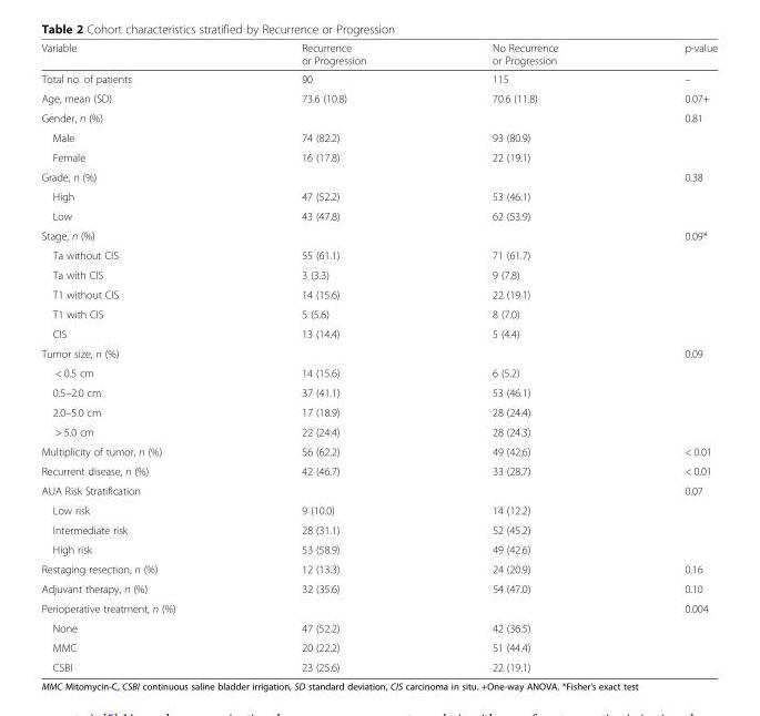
<table><thead><tr><td>Variable</td><td>Recurrence or Progression</td><td>No Recurrence or Progression</td><td>p-value</td></tr></thead><tbody><tr><td>Total no. of patients</td><td>90</td><td>115</td><td>–</td></tr><tr><td>Age, mean (SD)</td><td>73.6 (10.8)</td><td>70.6 (11.8)</td><td>0.07+</td></tr><tr><td>Gender, n (%)</td><td></td><td></td><td>0.81</td></tr><tr><td>Male</td><td>74 (82.2)</td><td>93 (80.9)</td><td rowspan="2"></td></tr><tr><td>Female</td><td>16 (17.8)</td><td>22 (19.1)</td></tr><tr><td>Grade, n (%)</td><td></td><td></td><td>0.38</td></tr><tr><td>High</td><td>47 (52.2)</td><td>53 (46.1)</td><td rowspan="2"></td></tr><tr><td>Low</td><td>43 (47.8)</td><td>62 (53.9)</td></tr><tr><td>Stage, n (%)</td><td></td><td></td><td>0.09*</td></tr><tr><td>Ta without CIS</td><td>55 (61.1)</td><td>71 (61.7)</td><td rowspan="5"></td></tr><tr><td>Ta with CIS</td><td>3 (3.3)</td><td>9 (7.8)</td></tr><tr><td>T1 without CIS</td><td>14 (15.6)</td><td>22 (19.1)</td></tr><tr><td>T1 with CIS</td><td>5 (5.6)</td><td>8 (7.0)</td></tr><tr><td>CIS</td><td>13 (14.4)</td><td>5 (4.4)</td></tr><tr><td>Tumor size, n (%)</td><td></td><td></td><td>0.09</td></tr><tr><td>&lt; 0.5 cm</td><td>14 (15.6)</td><td>6 (5.2)</td><td rowspan="4"></td></tr><tr><td>0.5–2.0 cm</td><td>37 (41.1)</td><td>53 (46.1)</td></tr><tr><td>2.0–5.0 cm</td><td>17 (18.9)</td><td>28 (24.4)</td></tr><tr><td>&gt; 5.0 cm</td><td>22 (24.4)</td><td>28 (24.3)</td></tr><tr><td>Multiplicity of tumor, n (%)</td><td>56 (62.2)</td><td>49 (42.6)</td><td>&lt; 0.01</td></tr><tr><td>Recurrent disease, n (%)</td><td>42 (46.7)</td><td>33 (28.7)</td><td>&lt; 0.01</td></tr><tr><td>AUA Risk Stratification</td><td></td><td></td><td>0.07</td></tr><tr><td>Low risk</td><td>9 (10.0)</td><td>14 (12.2)</td><td rowspan="3"></td></tr><tr><td>Intermediate risk</td><td>28 (31.1)</td><td>52 (45.2)</td></tr><tr><td>High risk</td><td>53 (58.9)</td><td>49 (42.6)</td></tr><tr><td>Restaging resection, n (%)</td><td>12 (13.3)</td><td>24 (20.9)</td><td>0.16</td></tr><tr><td>Adjuvant therapy, n (%)</td><td>32 (35.6)</td><td>54 (47.0)</td><td>0.10</td></tr><tr><td>Perioperative treatment, n (%)</td><td></td><td></td><td>0.004</td></tr><tr><td>None</td><td>47 (52.2)</td><td>42 (36.5)</td><td rowspan="3"></td></tr><tr><td>MMC</td><td>20 (22.2)</td><td>51 (44.4)</td></tr><tr><td>CSBI</td><td>23 (25.6)</td><td>22 (19.1)</td></tr></tbody></table>